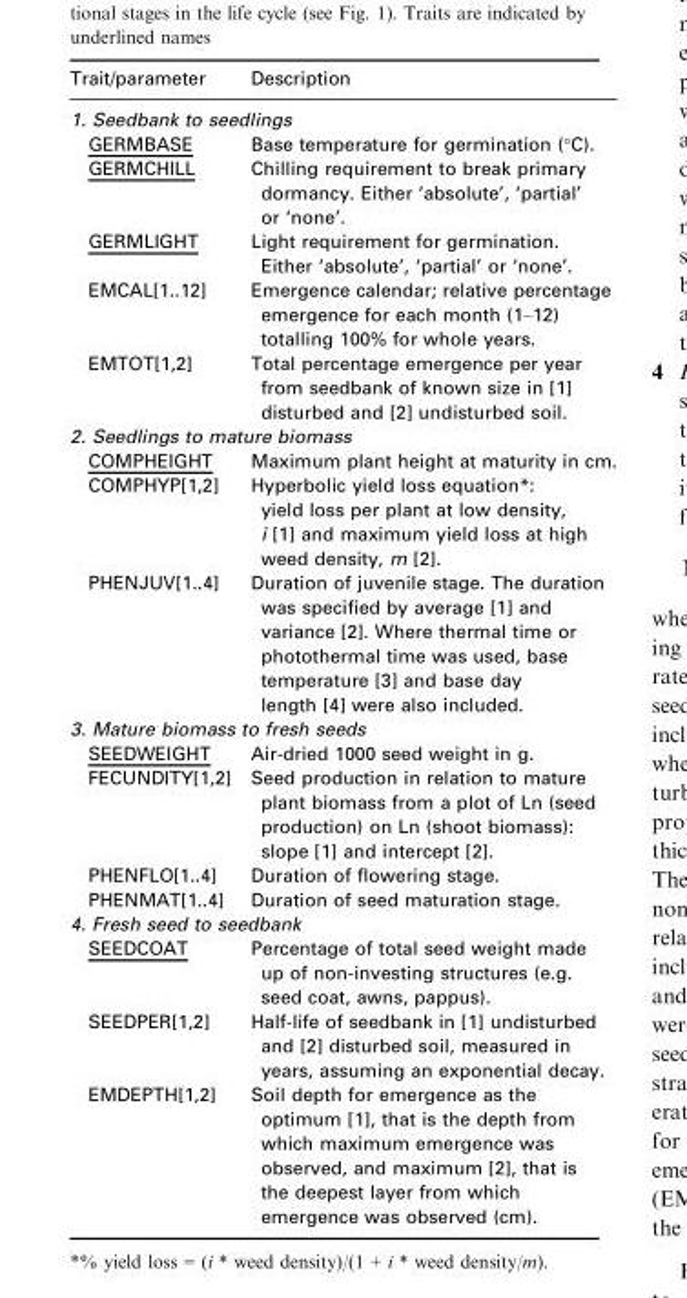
<table><thead><tr><td>Trait/parameter</td><td>Description</td></tr></thead><tbody><tr><td colspan="2">1. Seedbank to seedlings</td></tr><tr><td>GERMBASE</td><td>Base temperature for germination (°C).</td></tr><tr><td>GERMCHILL</td><td>Chilling requirement to break primary dormancy. Either ‘absolute’, ‘partial’ or ‘none’.</td></tr><tr><td>GERMLIGHT</td><td>Light requirement for germination. Either ‘absolute’, ‘partial’ or ‘none’.</td></tr><tr><td>EMCAL[1..12]</td><td>Emergence calendar; relative percentage emergence for each month (1–12) totalling 100% for whole years.</td></tr><tr><td>EMTOT[1,2]</td><td>Total percentage emergence per year from seedbank of known size in [1] disturbed and [2] undisturbed soil.</td></tr><tr><td colspan="2">2. Seedlings to mature biomass</td></tr><tr><td>COMPHEIGHT</td><td>Maximum plant height at maturity in cm.</td></tr><tr><td>COMPHYP[1,2]</td><td>Hyperbolic yield loss equation*: yield loss per plant at low density, i [1] and maximum yield loss at high weed density, m [2].</td></tr><tr><td>PHENJUV[1..4]</td><td>Duration of juvenile stage. The duration was specified by average [1] and variance [2]. Where thermal time or photothermal time was used, base temperature [3] and base day length [4] were also included.</td></tr><tr><td colspan="2">3. Mature biomass to fresh seeds</td></tr><tr><td>SEEDWEIGHT</td><td>Air-dried 1000 seed weight in g.</td></tr><tr><td>FECUNDITY[1,2]</td><td>Seed production in relation to mature plant biomass from a plot of Ln (seed production) on Ln (shoot biomass): slope [1] and intercept [2].</td></tr><tr><td>PHENFLO[1..4]</td><td>Duration of flowering stage.</td></tr><tr><td>PHENMAT[1..4]</td><td>Duration of seed maturation stage.</td></tr><tr><td colspan="2">4. Fresh seed to seedbank</td></tr><tr><td>SEEDCOAT</td><td>Percentage of total seed weight made up of non-investing structures (e.g. seed coat, awns, pappus).</td></tr><tr><td>SEEDPER[1,2]</td><td>Half-life of seedbank in [1] undisturbed and [2] disturbed soil, measured in years, assuming an exponential decay.</td></tr><tr><td>EMDEPTH[1,2]</td><td>Soil depth for emergence as the optimum [1], that is the depth from which maximum emergence was observed, and maximum [2], that is the deepest layer from which emergence was observed (cm).</td></tr></tbody></table>